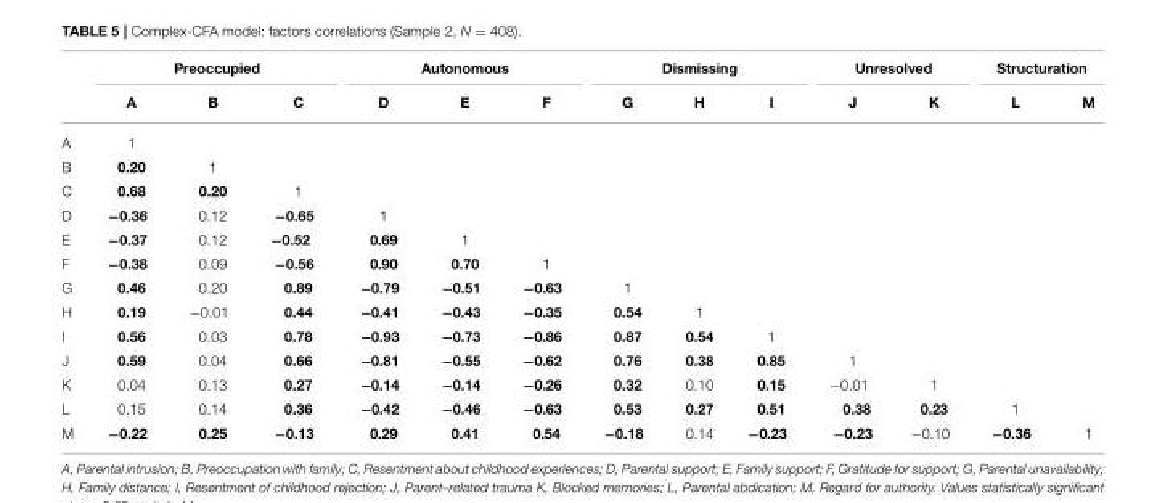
<table><thead><tr><td rowspan="2"></td><td colspan="3">Preoccupied</td><td colspan="3">Autonomous</td><td colspan="3">Dismissing</td><td colspan="2">Unresolved</td><td colspan="2">Structuration</td></tr><tr><td>A</td><td>B</td><td>C</td><td>D</td><td>E</td><td>F</td><td>G</td><td>H</td><td>I</td><td>J</td><td>K</td><td>L</td><td>M</td></tr></thead><tbody><tr><td>A</td><td>1</td><td></td><td></td><td></td><td></td><td></td><td></td><td></td><td></td><td></td><td></td><td></td><td></td></tr><tr><td>B</td><td>0.20</td><td>1</td><td></td><td></td><td></td><td></td><td></td><td></td><td></td><td></td><td></td><td></td><td></td></tr><tr><td>C</td><td>0.68</td><td>0.20</td><td>1</td><td></td><td></td><td></td><td></td><td></td><td></td><td></td><td></td><td></td><td></td></tr><tr><td>D</td><td>−0.36</td><td>0.12</td><td>−0.65</td><td>1</td><td></td><td></td><td></td><td></td><td></td><td></td><td></td><td></td><td></td></tr><tr><td>E</td><td>−0.37</td><td>0.12</td><td>−0.52</td><td>0.69</td><td>1</td><td></td><td></td><td></td><td></td><td></td><td></td><td></td><td></td></tr><tr><td>F</td><td>−0.38</td><td>0.09</td><td>−0.56</td><td>0.90</td><td>0.70</td><td>1</td><td></td><td></td><td></td><td></td><td></td><td></td><td></td></tr><tr><td>G</td><td>0.46</td><td>0.20</td><td>0.89</td><td>−0.79</td><td>−0.51</td><td>−0.63</td><td>1</td><td></td><td></td><td></td><td></td><td></td><td></td></tr><tr><td>H</td><td>0.19</td><td>−0.01</td><td>0.44</td><td>−0.41</td><td>−0.43</td><td>−0.35</td><td>0.54</td><td>1</td><td></td><td></td><td></td><td></td><td></td></tr><tr><td>I</td><td>0.56</td><td>0.03</td><td>0.78</td><td>−0.93</td><td>−0.73</td><td>−0.86</td><td>0.87</td><td>0.54</td><td>1</td><td></td><td></td><td></td><td></td></tr><tr><td>J</td><td>0.59</td><td>0.04</td><td>0.66</td><td>−0.81</td><td>−0.55</td><td>−0.62</td><td>0.76</td><td>0.38</td><td>0.85</td><td>1</td><td></td><td></td><td></td></tr><tr><td>K</td><td>0.04</td><td>0.13</td><td>0.27</td><td>−0.14</td><td>−0.14</td><td>−0.26</td><td>0.32</td><td>0.10</td><td>0.15</td><td>−0.01</td><td>1</td><td></td><td></td></tr><tr><td>L</td><td>0.15</td><td>0.14</td><td>0.36</td><td>−0.42</td><td>−0.46</td><td>−0.63</td><td>0.53</td><td>0.27</td><td>0.51</td><td>0.38</td><td>0.23</td><td>1</td><td></td></tr><tr><td>M</td><td>−0.22</td><td>0.25</td><td>−0.13</td><td>0.29</td><td>0.41</td><td>0.54</td><td>−0.18</td><td>0.14</td><td>−0.23</td><td>−0.23</td><td>−0.10</td><td>−0.36</td><td>1</td></tr></tbody></table>